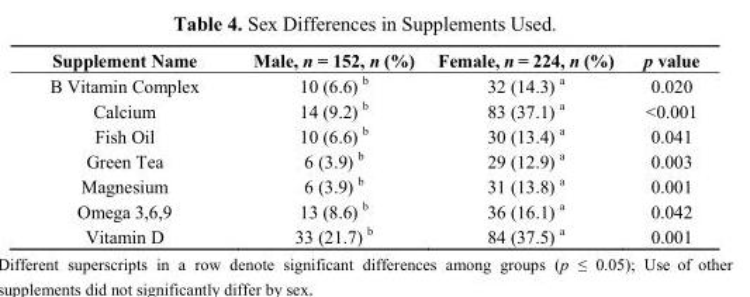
<table><thead><tr><td>Supplement Name</td><td>Male, n = 152, n (%)</td><td>Female, n = 224, n (%)</td><td>p value</td></tr></thead><tbody><tr><td>B Vitamin Complex</td><td>10 (6.6) <sup>b</sup></td><td>32 (14.3) <sup>a</sup></td><td>0.020</td></tr><tr><td>Calcium</td><td>14 (9.2) <sup>b</sup></td><td>83 (37.1) <sup>a</sup></td><td>&lt;0.001</td></tr><tr><td>Fish Oil</td><td>10 (6.6) <sup>b</sup></td><td>30 (13.4) <sup>a</sup></td><td>0.041</td></tr><tr><td>Green Tea</td><td>6 (3.9) <sup>b</sup></td><td>29 (12.9) <sup>a</sup></td><td>0.003</td></tr><tr><td>Magnesium</td><td>6 (3.9) <sup>b</sup></td><td>31 (13.8) <sup>a</sup></td><td>0.001</td></tr><tr><td>Omega 3,6,9</td><td>13 (8.6) <sup>b</sup></td><td>36 (16.1) <sup>a</sup></td><td>0.042</td></tr><tr><td>Vitamin D</td><td>33 (21.7) <sup>b</sup></td><td>84 (37.5) <sup>a</sup></td><td>0.001</td></tr></tbody></table>